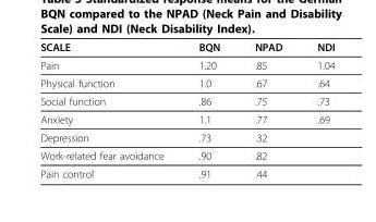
<table><thead><tr><td>SCALE</td><td>BQN</td><td>NPAD</td><td>NDI</td></tr></thead><tbody><tr><td>Pain</td><td>1.20</td><td>.85</td><td>1.04</td></tr><tr><td>Physical function</td><td>1.0</td><td>.67</td><td>.64</td></tr><tr><td>Social function</td><td>.86</td><td>.75</td><td>.73</td></tr><tr><td>Anxiety</td><td>1.1</td><td>.77</td><td>.69</td></tr><tr><td>Depression</td><td>.73</td><td>.32</td><td></td></tr><tr><td>Work-related fear avoidance</td><td>.90</td><td>.82</td><td></td></tr><tr><td>Pain control</td><td>.91</td><td>.44</td><td></td></tr></tbody></table>